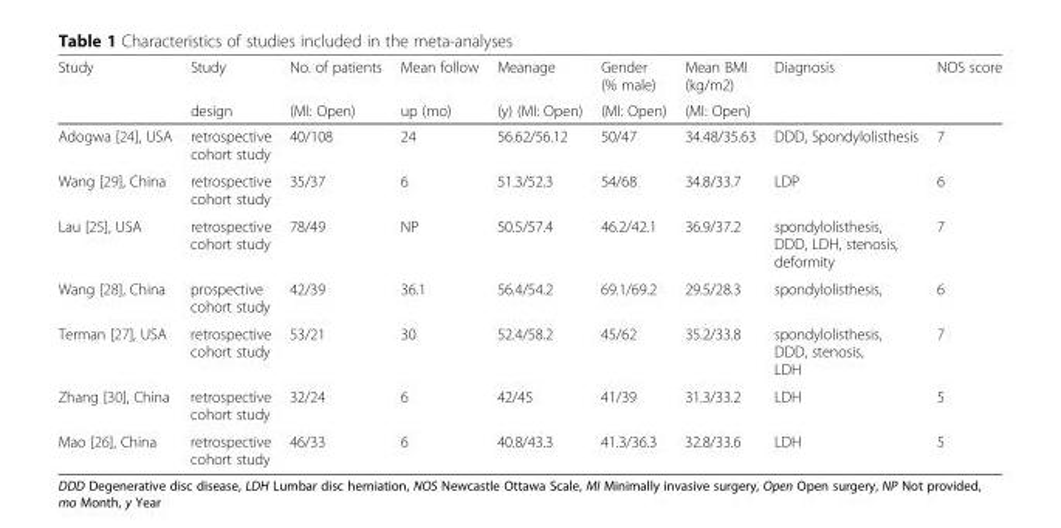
<table><thead><tr><td rowspan="2">Study</td><td rowspan="2">Study design</td><td rowspan="2">No. of patients (MI: Open)</td><td rowspan="2">Mean follow up (mo)</td><td rowspan="2">Meanage (y) (MI: Open)</td><td rowspan="2">Gender (% male) (MI: Open)</td><td rowspan="2">Mean BMI (kg/m2) (MI: Open)</td><td rowspan="2">Diagnosis</td><td rowspan="2">NOS score</td></tr><tr></tr></thead><tbody><tr><td>Adogwa [24], USA</td><td>retrospective cohort study</td><td>40/108</td><td>24</td><td>56.62/56.12</td><td>50/47</td><td>34.48/35.63</td><td>DDD, Spondylolisthesis</td><td>7</td></tr><tr><td>Wang [29], China</td><td>retrospective cohort study</td><td>35/37</td><td>6</td><td>51.3/52.3</td><td>54/68</td><td>34.8/33.7</td><td>LDP</td><td>6</td></tr><tr><td>Lau [25], USA</td><td>retrospective cohort study</td><td>78/49</td><td>NP</td><td>50.5/57.4</td><td>46.2/42.1</td><td>36.9/37.2</td><td>spondylolisthesis, DDD, LDH, stenosis, deformity</td><td>7</td></tr><tr><td>Wang [28], China</td><td>prospective cohort study</td><td>42/39</td><td>36.1</td><td>56.4/54.2</td><td>69.1/69.2</td><td>29.5/28.3</td><td>spondylolisthesis,</td><td>6</td></tr><tr><td>Terman [27], USA</td><td>retrospective cohort study</td><td>53/21</td><td>30</td><td>52.4/58.2</td><td>45/62</td><td>35.2/33.8</td><td>spondylolisthesis, DDD, stenosis, LDH</td><td>7</td></tr><tr><td>Zhang [30], China</td><td>retrospective cohort study</td><td>32/24</td><td>6</td><td>42/45</td><td>41/39</td><td>31.3/33.2</td><td>LDH</td><td>5</td></tr><tr><td>Mao [26], China</td><td>retrospective cohort study</td><td>46/33</td><td>6</td><td>40.8/43.3</td><td>41.3/36.3</td><td>32.8/33.6</td><td>LDH</td><td>5</td></tr></tbody></table>